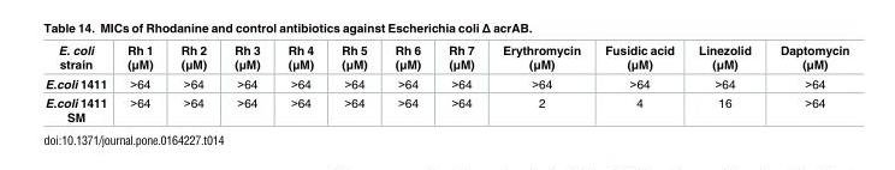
<table><thead><tr><td>E. coli strain</td><td>Rh 1 (μM)</td><td>Rh 2 (μM)</td><td>Rh 3 (μM)</td><td>Rh 4 (μM)</td><td>Rh 5 (μM)</td><td>Rh 6 (μM)</td><td>Rh 7 (μM)</td><td>Erythromycin (μM)</td><td>Fusidic acid (μM)</td><td>Linezolid (μM)</td><td>Daptomycin (μM)</td></tr></thead><tbody><tr><td>E.coli 1411</td><td>&gt;64</td><td>&gt;64</td><td>&gt;64</td><td>&gt;64</td><td>&gt;64</td><td>&gt;64</td><td>&gt;64</td><td>&gt;64</td><td>&gt;64</td><td>&gt;64</td><td>&gt;64</td></tr><tr><td>E.coli 1411 SM</td><td>&gt;64</td><td>&gt;64</td><td>&gt;64</td><td>&gt;64</td><td>&gt;64</td><td>&gt;64</td><td>&gt;64</td><td>2</td><td>4</td><td>16</td><td>&gt;64</td></tr></tbody></table>